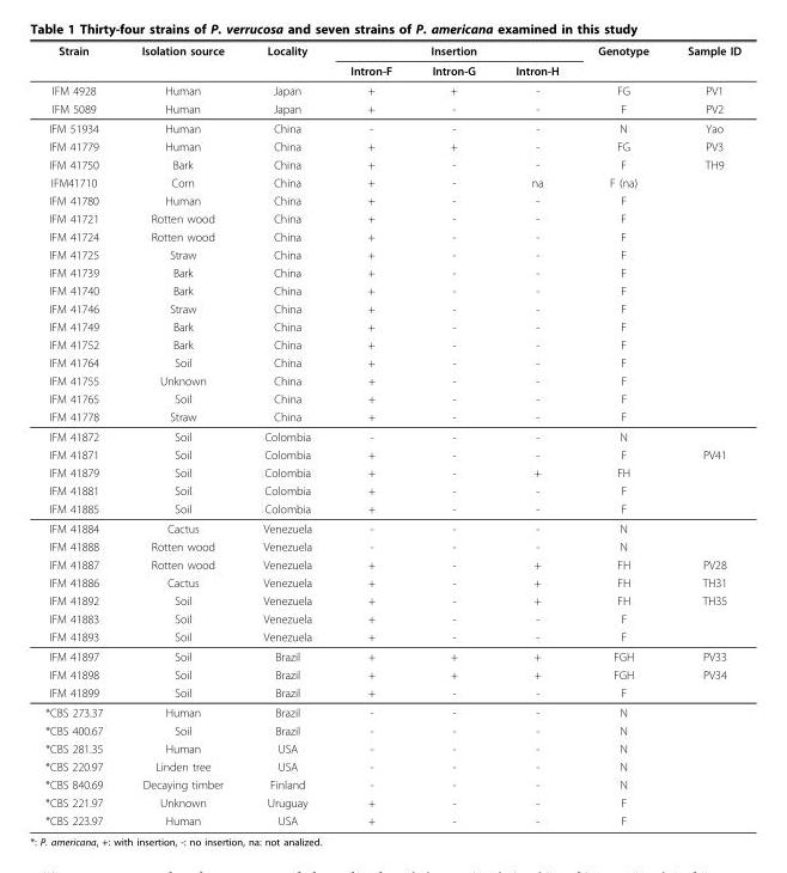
<table><tbody><tr><td rowspan="2">Strain</td><td>Isolation source</td><td>Locality</td><td></td><td>Insertion</td><td></td><td>Genotype</td><td>Sample ID</td></tr><tr><td></td><td></td><td>Intron-F</td><td>Intron-G</td><td>Intron-H</td><td></td><td></td></tr><tr><td>IFM 4928</td><td>Human</td><td>Japan</td><td>+</td><td>+</td><td>-</td><td>FG</td><td>PV1</td></tr><tr><td>IFM 5089</td><td>Human</td><td>Japan</td><td>+</td><td>-</td><td>-</td><td>F</td><td>PV2</td></tr><tr><td>IFM 51934</td><td>Human</td><td>China</td><td>-</td><td>-</td><td>-</td><td>N</td><td>Yao</td></tr><tr><td>IFM 41779</td><td>Human</td><td>China</td><td>+</td><td>+</td><td>-</td><td>FG</td><td>PV3</td></tr><tr><td>IFM 41750</td><td>Bark</td><td>China</td><td>+</td><td>-</td><td>-</td><td>F</td><td>TH9</td></tr><tr><td>IFM41710</td><td>Corn</td><td>China</td><td>+</td><td>-</td><td>na</td><td>F (na)</td><td></td></tr><tr><td>IFM 41780</td><td>Human</td><td>China</td><td>+</td><td>-</td><td>-</td><td>F</td><td></td></tr><tr><td>IFM 41721</td><td>Rotten wood</td><td>China</td><td>+</td><td>-</td><td>-</td><td>F</td><td></td></tr><tr><td>IFM 41724</td><td>Rotten wood</td><td>China</td><td>+</td><td>-</td><td>-</td><td>F</td><td></td></tr><tr><td>IFM 41725</td><td>Straw</td><td>China</td><td>+</td><td>-</td><td>-</td><td>F</td><td></td></tr><tr><td>IFM 41739</td><td>Bark</td><td>China</td><td>+</td><td>-</td><td>-</td><td>F</td><td></td></tr><tr><td>IFM 41740</td><td>Bark</td><td>China</td><td>+</td><td>-</td><td>-</td><td>F</td><td></td></tr><tr><td>IFM 41746</td><td>Straw</td><td>China</td><td>+</td><td>-</td><td>-</td><td>F</td><td></td></tr><tr><td>IFM 41749</td><td>Bark</td><td>China</td><td>+</td><td>-</td><td>-</td><td>F</td><td></td></tr><tr><td>IFM 41752</td><td>Bark</td><td>China</td><td>+</td><td>-</td><td>-</td><td>F</td><td></td></tr><tr><td>IFM 41764</td><td>Soil</td><td>China</td><td>+</td><td>-</td><td>-</td><td>F</td><td></td></tr><tr><td>IFM 41755</td><td>Unknown</td><td>China</td><td>+</td><td>-</td><td>-</td><td>F</td><td></td></tr><tr><td>IFM 41765</td><td>Soil</td><td>China</td><td>+</td><td>-</td><td>-</td><td>F</td><td></td></tr><tr><td>IFM 41778</td><td>Straw</td><td>China</td><td>+</td><td>-</td><td>-</td><td>F</td><td></td></tr><tr><td>IFM 41872</td><td>Soil</td><td>Colombia</td><td>-</td><td>-</td><td>-</td><td>N</td><td></td></tr><tr><td>IFM 41871</td><td>Soil</td><td>Colombia</td><td>+</td><td>-</td><td>-</td><td>F</td><td>PV41</td></tr><tr><td>IFM 41879</td><td>Soil</td><td>Colombia</td><td>+</td><td>-</td><td>+</td><td>FH</td><td></td></tr><tr><td>IFM 41881</td><td>Soil</td><td>Colombia</td><td>+</td><td>-</td><td>-</td><td>F</td><td></td></tr><tr><td>IFM 41885</td><td>Soil</td><td>Colombia</td><td>+</td><td>-</td><td>-</td><td>F</td><td></td></tr><tr><td>IFM 41884</td><td>Cactus</td><td>Venezuela</td><td>-</td><td>-</td><td>-</td><td>N</td><td></td></tr><tr><td>IFM 41888</td><td>Rotten wood</td><td>Venezuela</td><td>-</td><td>-</td><td>-</td><td>N</td><td></td></tr><tr><td>IFM 41887</td><td>Rotten wood</td><td>Venezuela</td><td>+</td><td>-</td><td>+</td><td>FH</td><td>PV28</td></tr><tr><td>IFM 41886</td><td>Cactus</td><td>Venezuela</td><td>+</td><td>-</td><td>+</td><td>FH</td><td>TH31</td></tr><tr><td>IFM 41892</td><td>Soil</td><td>Venezuela</td><td>+</td><td>-</td><td>+</td><td>FH</td><td>TH35</td></tr><tr><td>IFM 41883</td><td>Soil</td><td>Venezuela</td><td>+</td><td>-</td><td>-</td><td>F</td><td></td></tr><tr><td>IFM 41893</td><td>Soil</td><td>Venezuela</td><td>+</td><td>-</td><td>-</td><td>F</td><td></td></tr><tr><td>IFM 41897</td><td>Soil</td><td>Brazil</td><td>+</td><td>+</td><td>+</td><td>FGH</td><td>PV33</td></tr><tr><td>IFM 41898</td><td>Soil</td><td>Brazil</td><td>+</td><td>+</td><td>+</td><td>FGH</td><td>PV34</td></tr><tr><td>IFM 41899</td><td>Soil</td><td>Brazil</td><td>+</td><td>-</td><td>-</td><td>F</td><td></td></tr><tr><td>*CBS 273.37</td><td>Human</td><td>Brazil</td><td>-</td><td>-</td><td>-</td><td>N</td><td></td></tr><tr><td>*CBS 400.67</td><td>Soil</td><td>Brazil</td><td>-</td><td>-</td><td>-</td><td>N</td><td></td></tr><tr><td>*CBS 281.35</td><td>Human</td><td>USA</td><td>-</td><td>-</td><td>-</td><td>N</td><td></td></tr><tr><td>*CBS 220.97</td><td>Linden tree</td><td>USA</td><td>-</td><td>-</td><td>-</td><td>N</td><td></td></tr><tr><td>*CBS 840.69</td><td>Decaying timber</td><td>Finland</td><td>-</td><td>-</td><td>-</td><td>N</td><td></td></tr><tr><td>*CBS 221.97</td><td>Unknown</td><td>Uruguay</td><td>+</td><td>-</td><td>-</td><td>F</td><td></td></tr><tr><td>*CBS 223.97</td><td>Human</td><td>USA</td><td>+</td><td>-</td><td>-</td><td>F</td><td></td></tr></tbody></table>